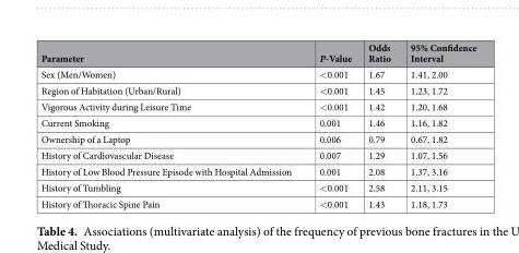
<table><thead><tr><td>Parameter</td><td>P-Value</td><td>Odds Ratio</td><td>95% Confidence Interval</td></tr></thead><tbody><tr><td>Sex (Men/Women)</td><td>&lt;0.001</td><td>1.67</td><td>1.41, 2.00</td></tr><tr><td>Region of Habitation (Urban/Rural)</td><td>&lt;0.001</td><td>1.45</td><td>1.23, 1.72</td></tr><tr><td>Vigorous Activity during Leisure Time</td><td>&lt;0.001</td><td>1.42</td><td>1.20, 1.68</td></tr><tr><td>Current Smoking</td><td>0.001</td><td>1.46</td><td>1.16, 1.82</td></tr><tr><td>Ownership of a Laptop</td><td>0.006</td><td>0.79</td><td>0.67, 1.82</td></tr><tr><td>History of Cardiovascular Disease</td><td>0.007</td><td>1.29</td><td>1.07, 1.56</td></tr><tr><td>History of Low Blood Pressure Episode with Hospital Admission</td><td>0.001</td><td>2.08</td><td>1.37, 3.16</td></tr><tr><td>History of Tumbling</td><td>&lt;0.001</td><td>2.58</td><td>2.11, 3.15</td></tr><tr><td>History of Thoracic Spine Pain</td><td>&lt;0.001</td><td>1.43</td><td>1.18, 1.73</td></tr></tbody></table>